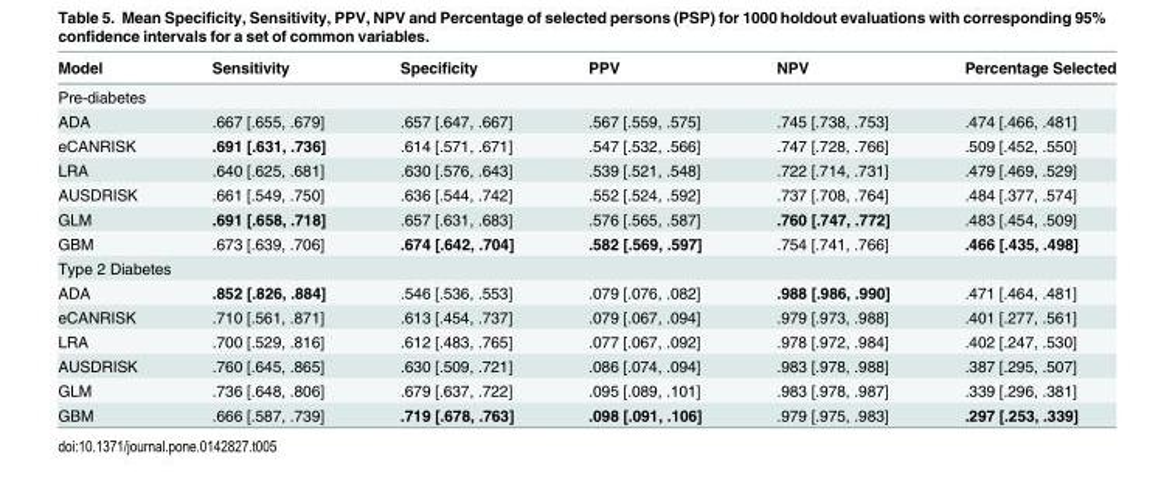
<table><thead><tr><td>Model</td><td>Sensitivity</td><td>Specificity</td><td>PPV</td><td>NPV</td><td>Percentage Selected</td></tr></thead><tbody><tr><td colspan="6">Pre-diabetes</td></tr><tr><td>ADA</td><td>.667 [.655, .679]</td><td>.657 [.647, .667]</td><td>.567 [.559, .575]</td><td>.745 [.738, .753]</td><td>.474 [.466, .481]</td></tr><tr><td>eCANRISK</td><td>.691 [.631, .736]</td><td>.614 [.571, .671]</td><td>.547 [.532, .566]</td><td>.747 [.728, .766]</td><td>.509 [.452, .550]</td></tr><tr><td>LRA</td><td>.640 [.625, .681]</td><td>.630 [.576, .643]</td><td>.539 [.521, .548]</td><td>.722 [.714, .731]</td><td>.479 [.469, .529]</td></tr><tr><td>AUSDRISK</td><td>.661 [.549, .750]</td><td>.636 [.544, .742]</td><td>.552 [.524, .592]</td><td>.737 [.708, .764]</td><td>.484 [.377, .574]</td></tr><tr><td>GLM</td><td>.691 [.658, .718]</td><td>.657 [.631, .683]</td><td>.576 [.565, .587]</td><td>.760 [.747, .772]</td><td>.483 [.454, .509]</td></tr><tr><td>GBM</td><td>.673 [.639, .706]</td><td>.674 [.642, .704]</td><td>.582 [.569, .597]</td><td>.754 [.741, .766]</td><td>.466 [.435, .498]</td></tr><tr><td colspan="6">Type 2 Diabetes</td></tr><tr><td>ADA</td><td>.852 [.826, .884]</td><td>.546 [.536, .553]</td><td>.079 [.076, .082]</td><td>.988 [.986, .990]</td><td>.471 [.464, .481]</td></tr><tr><td>eCANRISK</td><td>.710 [.561, .871]</td><td>.613 [.454, .737]</td><td>.079 [.067, .094]</td><td>.979 [.973, .988]</td><td>.401 [.277, .561]</td></tr><tr><td>LRA</td><td>.700 [.529, .816]</td><td>.612 [.483, .765]</td><td>.077 [.067, .092]</td><td>.978 [.972, .984]</td><td>.402 [.247, .530]</td></tr><tr><td>AUSDRISK</td><td>.760 [.645, .865]</td><td>.630 [.509, .721]</td><td>.086 [.074, .094]</td><td>.983 [.978, .988]</td><td>.387 [.295, .507]</td></tr><tr><td>GLM</td><td>.736 [.648, .806]</td><td>.679 [.637, .722]</td><td>.095 [.089, .101]</td><td>.983 [.978, .987]</td><td>.339 [.296, .381]</td></tr><tr><td>GBM</td><td>.666 [.587, .739]</td><td>.719 [.678, .763]</td><td>.098 [.091, .106]</td><td>.979 [.975, .983]</td><td>.297 [.253, .339]</td></tr></tbody></table>